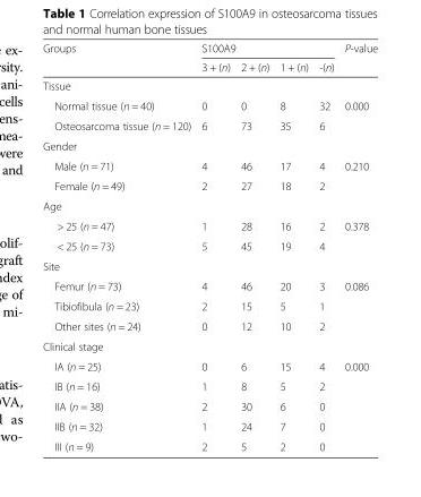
<table><thead><tr><td rowspan="2">Groups</td><td colspan="4">S100A9</td><td rowspan="2">P-value</td></tr><tr><td>3 + (n)</td><td>2 + (n)</td><td>1 + (n)</td><td>-(n)</td></tr></thead><tbody><tr><td colspan="6">Tissue</td></tr><tr><td>Normal tissue (n = 40)</td><td>0</td><td>0</td><td>8</td><td>32</td><td>0.000</td></tr><tr><td>Osteosarcoma tissue (n = 120)</td><td>6</td><td>73</td><td>35</td><td>6</td><td></td></tr><tr><td colspan="6">Gender</td></tr><tr><td>Male (n = 71)</td><td>4</td><td>46</td><td>17</td><td>4</td><td>0.210</td></tr><tr><td>Female (n = 49)</td><td>2</td><td>27</td><td>18</td><td>2</td><td></td></tr><tr><td colspan="6">Age</td></tr><tr><td>&gt; 25 (n = 47)</td><td>1</td><td>28</td><td>16</td><td>2</td><td>0.378</td></tr><tr><td>&lt; 25 (n = 73)</td><td>5</td><td>45</td><td>19</td><td>4</td><td></td></tr><tr><td colspan="6">Site</td></tr><tr><td>Femur (n = 73)</td><td>4</td><td>46</td><td>20</td><td>3</td><td>0.086</td></tr><tr><td>Tibiofibula (n = 23)</td><td>2</td><td>15</td><td>5</td><td>1</td><td></td></tr><tr><td>Other sites (n = 24)</td><td>0</td><td>12</td><td>10</td><td>2</td><td></td></tr><tr><td colspan="6">Clinical stage</td></tr><tr><td>IA (n = 25)</td><td>0</td><td>6</td><td>15</td><td>4</td><td>0.000</td></tr><tr><td>IB (n = 16)</td><td>1</td><td>8</td><td>5</td><td>2</td><td></td></tr><tr><td>IIA (n = 38)</td><td>2</td><td>30</td><td>6</td><td>0</td><td></td></tr><tr><td>IIB (n = 32)</td><td>1</td><td>24</td><td>7</td><td>0</td><td></td></tr><tr><td>III (n = 9)</td><td>2</td><td>5</td><td>2</td><td>0</td><td></td></tr></tbody></table>